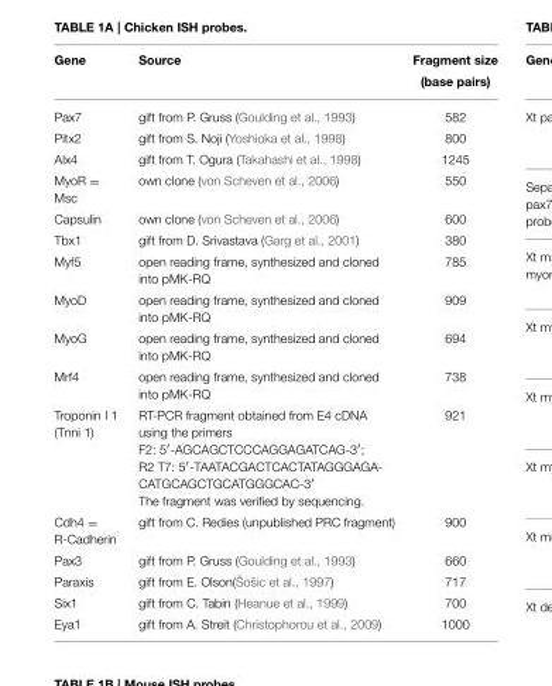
<table><thead><tr><td>Gene</td><td>Source</td><td>Fragment size (base pairs)</td></tr></thead><tbody><tr><td>Pax7</td><td>gift from P. Gruss (Goulding et al., 1993)</td><td>582</td></tr><tr><td>Pitx2</td><td>gift from S. Noji (Yoshioka et al., 1998)</td><td>800</td></tr><tr><td>Alx4</td><td>gift from T. Ogura (Takahashi et al., 1998)</td><td>1245</td></tr><tr><td>MyoR = Msc</td><td>own clone (von Scheven et al., 2006)</td><td>550</td></tr><tr><td>Capsulin</td><td>own clone (von Scheven et al., 2006)</td><td>600</td></tr><tr><td>Tbx1</td><td>gift from D. Srivastava (Garg et al., 2001)</td><td>380</td></tr><tr><td>Myf5</td><td>open reading frame, synthesized and cloned into pMK-RQ</td><td>785</td></tr><tr><td>MyoD</td><td>open reading frame, synthesized and cloned into pMK-RQ</td><td>909</td></tr><tr><td>MyoG</td><td>open reading frame, synthesized and cloned into pMK-RQ</td><td>694</td></tr><tr><td>Mrf4</td><td>open reading frame, synthesized and cloned into pMK-RQ</td><td>738</td></tr><tr><td>Troponin I 1 (Tnni 1)</td><td>RT-PCR fragment obtained from E4 cDNA using the primers F2: 5′-AGCAGCTCCCAGGAGATCAG-3′; R2 T7: 5′-TAATACGACTCACTATAGGGAGA- CATGCAGCTGCATGGGCAC-3′ The fragment was verified by sequencing.</td><td>921</td></tr><tr><td>Cdh4 = R-Cadherin</td><td>gift from C. Redies (unpublished PRC fragment)</td><td>900</td></tr><tr><td>Pax3</td><td>gift from P. Gruss (Goulding et al., 1993)</td><td>660</td></tr><tr><td>Paraxis</td><td>gift from E. Olson(Šošic et al., 1997)</td><td>717</td></tr><tr><td>Six1</td><td>gift from C. Tabin (Heanue et al., 1999)</td><td>700</td></tr><tr><td>Eya1</td><td>gift from A. Streit (Christophorou et al., 2009)</td><td>1000</td></tr></tbody></table>